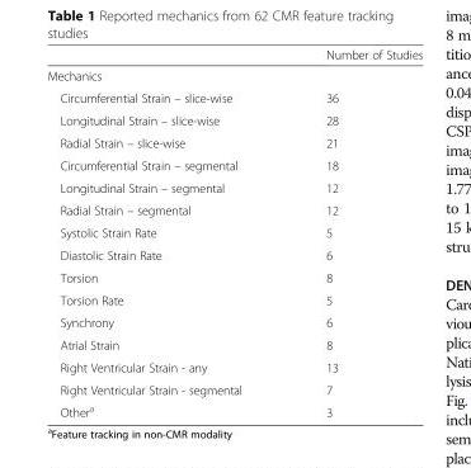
<table><thead><tr><td></td><td>Number of Studies</td></tr></thead><tbody><tr><td colspan="2">Mechanics</td></tr><tr><td>Circumferential Strain – slice-wise</td><td>36</td></tr><tr><td>Longitudinal Strain – slice-wise</td><td>28</td></tr><tr><td>Radial Strain – slice-wise</td><td>21</td></tr><tr><td>Circumferential Strain – segmental</td><td>18</td></tr><tr><td>Longitudinal Strain – segmental</td><td>12</td></tr><tr><td>Radial Strain – segmental</td><td>12</td></tr><tr><td>Systolic Strain Rate</td><td>5</td></tr><tr><td>Diastolic Strain Rate</td><td>6</td></tr><tr><td>Torsion</td><td>8</td></tr><tr><td>Torsion Rate</td><td>5</td></tr><tr><td>Synchrony</td><td>6</td></tr><tr><td>Atrial Strain</td><td>8</td></tr><tr><td>Right Ventricular Strain - any</td><td>13</td></tr><tr><td>Right Ventricular Strain - segmental</td><td>7</td></tr><tr><td>Other<sup>a</sup></td><td>3</td></tr></tbody></table>